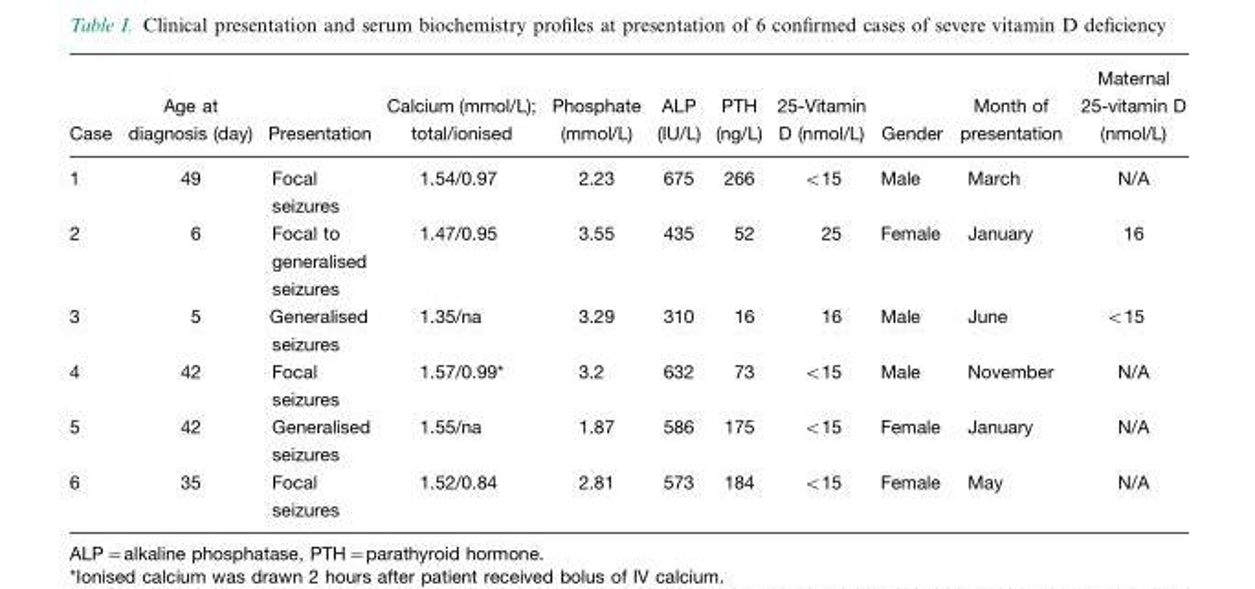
<table><thead><tr><td>Case</td><td>Age at diagnosis (day)</td><td>Presentation</td><td>Calcium (mmol/L); total/ionised</td><td>Phosphate (mmol/L)</td><td>ALP (IU/L)</td><td>PTH (ng/L)</td><td>25-Vitamin D (nmol/L)</td><td>Gender</td><td>Month of presentation</td><td>Maternal 25-vitamin D (nmol/L)</td></tr></thead><tbody><tr><td>1</td><td>49</td><td>Focal seizures</td><td>1.54/0.97</td><td>2.23</td><td>675</td><td>266</td><td>&lt;15</td><td>Male</td><td>March</td><td>N/A</td></tr><tr><td>2</td><td>6</td><td>Focal to generalised seizures</td><td>1.47/0.95</td><td>3.55</td><td>435</td><td>52</td><td>25</td><td>Female</td><td>January</td><td>16</td></tr><tr><td>3</td><td>5</td><td>Generalised seizures</td><td>1.35/na</td><td>3.29</td><td>310</td><td>16</td><td>16</td><td>Male</td><td>June</td><td>&lt;15</td></tr><tr><td>4</td><td>42</td><td>Focal seizures</td><td>1.57/0.99*</td><td>3.2</td><td>632</td><td>73</td><td>&lt;15</td><td>Male</td><td>November</td><td>N/A</td></tr><tr><td>5</td><td>42</td><td>Generalised seizures</td><td>1.55/na</td><td>1.87</td><td>586</td><td>175</td><td>&lt;15</td><td>Female</td><td>January</td><td>N/A</td></tr><tr><td>6</td><td>35</td><td>Focal seizures</td><td>1.52/0.84</td><td>2.81</td><td>573</td><td>184</td><td>&lt;15</td><td>Female</td><td>May</td><td>N/A</td></tr></tbody></table>